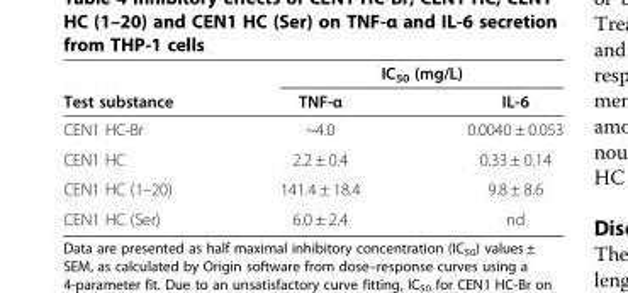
<table><thead><tr><td rowspan="2">Test substance</td><td colspan="2">IC<sub>50</sub> (mg/L)</td></tr><tr><td>TNF-α</td><td>IL-6</td></tr></thead><tbody><tr><td>CEN1 HC-Br</td><td>~4.0</td><td>0.0040 ± 0.053</td></tr><tr><td>CEN1 HC</td><td>2.2 ± 0.4</td><td>0.33 ± 0.14</td></tr><tr><td>CEN1 HC (1–20)</td><td>141.4 ± 18.4</td><td>9.8 ± 8.6</td></tr><tr><td>CEN1 HC (Ser)</td><td>6.0 ± 2.4</td><td>nd</td></tr></tbody></table>